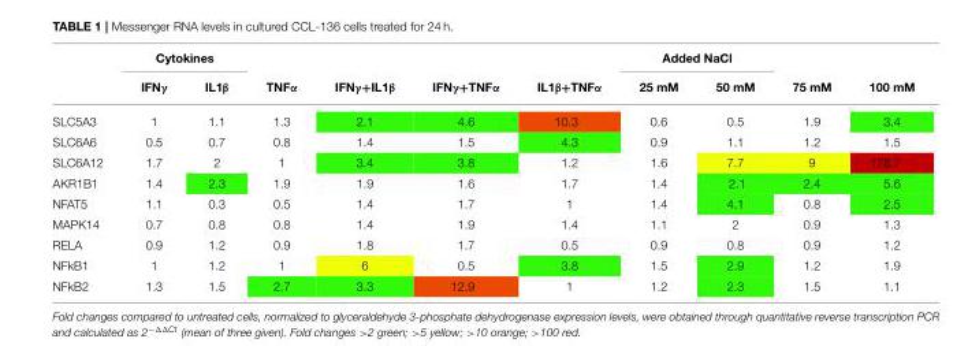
<table><thead><tr><td rowspan="2"></td><td colspan="2">Cytokines</td><td rowspan="2">TNFα</td><td rowspan="2">IFNγ+IL1β</td><td rowspan="2">IFNγ+TNFα</td><td rowspan="2">IL1β+TNFα</td><td colspan="2">Added NaCl</td><td rowspan="2">75 mM</td><td rowspan="2">100 mM</td></tr><tr><td>IFNγ</td><td>IL1β</td><td>25 mM</td><td>50 mM</td></tr></thead><tbody><tr><td>SLC5A3</td><td>1</td><td>1.1</td><td>1.3</td><td>2.1</td><td>4.6</td><td>10.3</td><td>0.6</td><td>0.5</td><td>1.9</td><td>3.4</td></tr><tr><td>SLC6A6</td><td>0.5</td><td>0.7</td><td>0.8</td><td>1.4</td><td>1.5</td><td>4.3</td><td>0.9</td><td>1.1</td><td>1.2</td><td>1.5</td></tr><tr><td>SLC6A12</td><td>1.7</td><td>2</td><td>1</td><td>3.4</td><td>3.8</td><td>1.2</td><td>1.6</td><td>7.7</td><td>9</td><td>178.7</td></tr><tr><td>AKR1B1</td><td>1.4</td><td>2.3</td><td>1.9</td><td>1.9</td><td>1.6</td><td>1.7</td><td>1.4</td><td>2.1</td><td>2.4</td><td>5.6</td></tr><tr><td>NFAT5</td><td>1.1</td><td>0.3</td><td>0.5</td><td>1.4</td><td>1.7</td><td>1</td><td>1.4</td><td>4.1</td><td>0.8</td><td>2.5</td></tr><tr><td>MAPK14</td><td>0.7</td><td>0.8</td><td>0.8</td><td>1.4</td><td>1.9</td><td>1.4</td><td>1.1</td><td>2</td><td>0.9</td><td>1.3</td></tr><tr><td>RELA</td><td>0.9</td><td>1.2</td><td>0.9</td><td>1.8</td><td>1.7</td><td>0.5</td><td>0.9</td><td>0.8</td><td>0.9</td><td>1.2</td></tr><tr><td>NFkB1</td><td>1</td><td>1.2</td><td>1</td><td>6</td><td>0.5</td><td>3.8</td><td>1.5</td><td>2.9</td><td>1.2</td><td>1.9</td></tr><tr><td>NFkB2</td><td>1.3</td><td>1.5</td><td>2.7</td><td>3.3</td><td>12.9</td><td>1</td><td>1.2</td><td>2.3</td><td>1.5</td><td>1.1</td></tr></tbody></table>